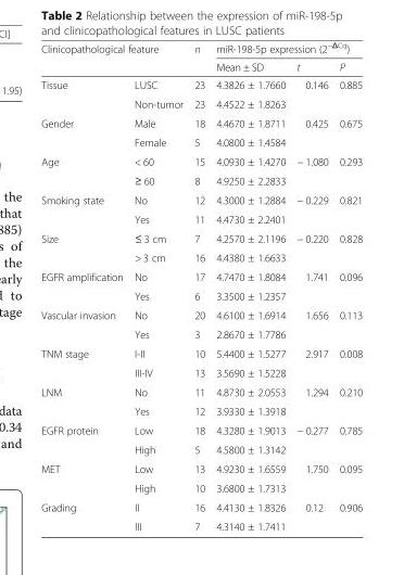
<table><thead><tr><td rowspan="2" colspan="2">Clinicopathological feature</td><td rowspan="3">n 23</td><td colspan="3">miR-198-5p expression (2<sup>−ΔCq</sup>)</td></tr><tr><td rowspan="2">Mean ± SD 4.3826 ± 1.7660</td><td rowspan="2">t 0.146</td><td rowspan="2">P 0.885</td></tr><tr><td>Tissue</td><td>LUSC</td></tr></thead><tbody><tr><td></td><td>Non-tumor</td><td>23</td><td>4.4522 ± 1.8263</td><td></td><td></td></tr><tr><td rowspan="2">Gender</td><td>Male</td><td>18</td><td>4.4670 ± 1.8711</td><td>0.425</td><td>0.675</td></tr><tr><td>Female</td><td>5</td><td>4.0800 ± 1.4584</td><td></td><td></td></tr><tr><td rowspan="2">Age</td><td>&lt; 60</td><td>15</td><td>4.0930 ± 1.4270</td><td>− 1.080</td><td>0.293</td></tr><tr><td>≥ 60</td><td>8</td><td>4.9250 ± 2.2833</td><td></td><td></td></tr><tr><td rowspan="2">Smoking state</td><td>No</td><td>12</td><td>4.3000 ± 1.2884</td><td>− 0.229</td><td>0.821</td></tr><tr><td>Yes</td><td>11</td><td>4.4730 ± 2.2401</td><td></td><td></td></tr><tr><td rowspan="2">Size</td><td>≤ 3 cm</td><td>7</td><td>4.2570 ± 2.1196</td><td>− 0.220</td><td>0.828</td></tr><tr><td>&gt; 3 cm</td><td>16</td><td>4.4380 ± 1.6633</td><td></td><td></td></tr><tr><td rowspan="2">EGFR amplification</td><td>No</td><td>17</td><td>4.7470 ± 1.8084</td><td>1.741</td><td>0.096</td></tr><tr><td>Yes</td><td>6</td><td>3.3500 ± 1.2357</td><td></td><td></td></tr><tr><td rowspan="2">Vascular invasion</td><td>No</td><td>20</td><td>4.6100 ± 1.6914</td><td>1.656</td><td>0.113</td></tr><tr><td>Yes</td><td>3</td><td>2.8670 ± 1.7786</td><td></td><td></td></tr><tr><td rowspan="2">TNM stage</td><td>I-II</td><td>10</td><td>5.4400 ± 1.5277</td><td>2.917</td><td>0.008</td></tr><tr><td>III-IV</td><td>13</td><td>3.5690 ± 1.5228</td><td></td><td></td></tr><tr><td rowspan="2">LNM</td><td>No</td><td>11</td><td>4.8730 ± 2.0553</td><td>1.294</td><td>0.210</td></tr><tr><td>Yes</td><td>12</td><td>3.9330 ± 1.3918</td><td></td><td></td></tr><tr><td rowspan="2">EGFR protein</td><td>Low</td><td>18</td><td>4.3280 ± 1.9013</td><td>− 0.277</td><td>0.785</td></tr><tr><td>High</td><td>5</td><td>4.5800 ± 1.3142</td><td></td><td></td></tr><tr><td rowspan="2">MET</td><td>Low</td><td>13</td><td>4.9230 ± 1.6559</td><td>1.750</td><td>0.095</td></tr><tr><td>High</td><td>10</td><td>3.6800 ± 1.7313</td><td></td><td></td></tr><tr><td rowspan="2">Grading</td><td>II</td><td>16</td><td>4.4130 ± 1.8326</td><td>0.12</td><td>0.906</td></tr><tr><td>III</td><td>7</td><td>4.3140 ± 1.7411</td><td></td><td></td></tr></tbody></table>